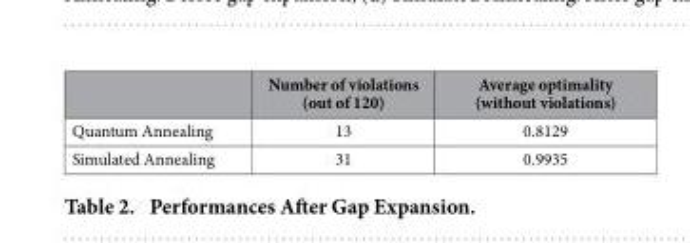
<table><thead><tr><td></td><td>Number of violations (out of 120)</td><td>Average optimality (without violations)</td></tr></thead><tbody><tr><td>Quantum Annealing</td><td>13</td><td>0.8129</td></tr><tr><td>Simulated Annealing</td><td>31</td><td>0.9935</td></tr></tbody></table>